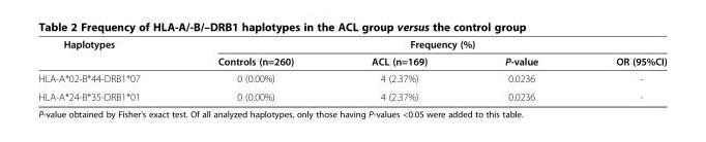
<table><thead><tr><td rowspan="2">Haplotypes</td><td colspan="4">Frequency (%)</td></tr><tr><td>Controls (n=260)</td><td>ACL (n=169)</td><td>P-value</td><td>OR (95%CI)</td></tr></thead><tbody><tr><td>HLA-A*02-B*44-DRB1*07</td><td>0 (0.00%)</td><td>4 (2.37%)</td><td>0.0236</td><td>-</td></tr><tr><td>HLA-A*24-B*35-DRB1*01</td><td>0 (0.00%)</td><td>4 (2.37%)</td><td>0.0236</td><td>-</td></tr></tbody></table>